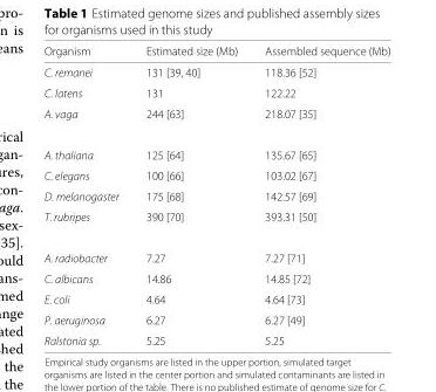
<table><thead><tr><td>Organism</td><td>Estimated size (Mb)</td><td>Assembled sequence (Mb)</td></tr></thead><tbody><tr><td>C. remanei</td><td>131 [39, 40]</td><td>118.36 [52]</td></tr><tr><td>C. latens</td><td>131</td><td>122.22</td></tr><tr><td>A. vaga</td><td>244 [63]</td><td>218.07 [35]</td></tr><tr><td>A. thaliana</td><td>125 [64]</td><td>135.67 [65]</td></tr><tr><td>C. elegans</td><td>100 [66]</td><td>103.02 [67]</td></tr><tr><td>D. melanogaster</td><td>175 [68]</td><td>142.57 [69]</td></tr><tr><td>T. rubripes</td><td>390 [70]</td><td>393.31 [50]</td></tr><tr><td>A. radiobacter</td><td>7.27</td><td>7.27 [71]</td></tr><tr><td>C. albicans</td><td>14.86</td><td>14.85 [72]</td></tr><tr><td>E. coli</td><td>4.64</td><td>4.64 [73]</td></tr><tr><td>P. aeruginosa</td><td>6.27</td><td>6.27 [49]</td></tr><tr><td>Ralstonia sp.</td><td>5.25</td><td>5.25</td></tr></tbody></table>